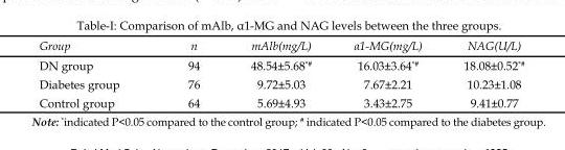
<table><thead><tr><td>Group</td><td>n</td><td>mAlb(mg/L)</td><td>α1-MG(mg/L)</td><td>NAG(U/L)</td></tr></thead><tbody><tr><td>DN group</td><td>94</td><td>48.54±5.68*<sup>#</sup></td><td>16.03±3.64*<sup>#</sup></td><td>18.08±0.52*<sup>#</sup></td></tr><tr><td>Diabetes group</td><td>76</td><td>9.72±5.03</td><td>7.67±2.21</td><td>10.23±1.08</td></tr><tr><td>Control group</td><td>64</td><td>5.69±4.93</td><td>3.43±2.75</td><td>9.41±0.77</td></tr></tbody></table>